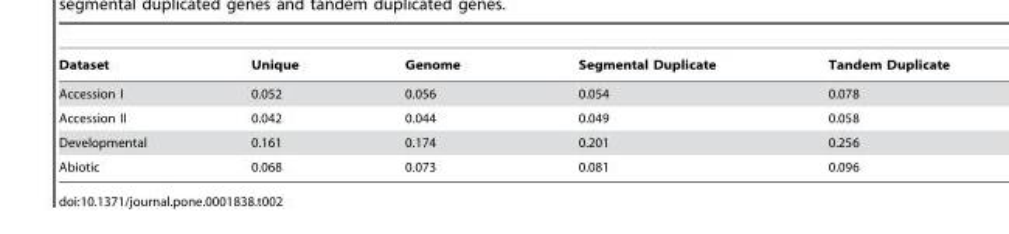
<table><thead><tr><td>Dataset</td><td>Unique</td><td>Genome</td><td>Segmental Duplicate</td><td>Tandem Duplicate</td></tr></thead><tbody><tr><td>Accession I</td><td>0.052</td><td>0.056</td><td>0.054</td><td>0.078</td></tr><tr><td>Accession II</td><td>0.042</td><td>0.044</td><td>0.049</td><td>0.058</td></tr><tr><td>Developmental</td><td>0.161</td><td>0.174</td><td>0.201</td><td>0.256</td></tr><tr><td>Abiotic</td><td>0.068</td><td>0.073</td><td>0.081</td><td>0.096</td></tr></tbody></table>